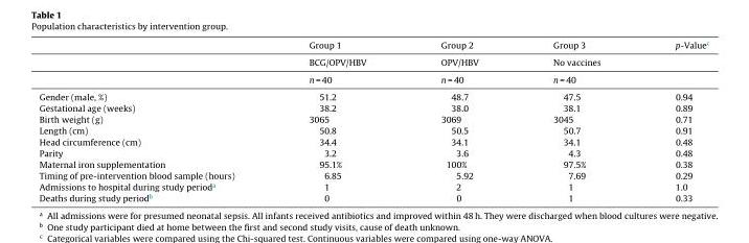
<table><thead><tr><td rowspan="3"></td><td rowspan="3">Group 1 BCG/OPV/HBV n = 40</td><td rowspan="3">Group 2 OPV/HBV n = 40</td><td rowspan="3">Group 3 No vaccines n = 40</td><td rowspan="3">p-Value<sup>c</sup></td></tr><tr></tr><tr></tr></thead><tbody><tr><td>Gender (male, %)</td><td>51.2</td><td>48.7</td><td>47.5</td><td>0.94</td></tr><tr><td>Gestational age (weeks)</td><td>38.2</td><td>38.0</td><td>38.1</td><td>0.89</td></tr><tr><td>Birth weight (g)</td><td>3065</td><td>3069</td><td>3045</td><td>0.71</td></tr><tr><td>Length (cm)</td><td>50.8</td><td>50.5</td><td>50.7</td><td>0.91</td></tr><tr><td>Head circumference (cm)</td><td>34.4</td><td>34.1</td><td>34.1</td><td>0.48</td></tr><tr><td>Parity</td><td>3.2</td><td>3.6</td><td>4.3</td><td>0.48</td></tr><tr><td>Maternal iron supplementation</td><td>95.1%</td><td>100%</td><td>97.5%</td><td>0.38</td></tr><tr><td>Timing of pre-intervention blood sample (hours)</td><td>6.85</td><td>5.92</td><td>7.69</td><td>0.29</td></tr><tr><td>Admissions to hospital during study period<sup>a</sup></td><td>1</td><td>2</td><td>1</td><td>1.0</td></tr><tr><td>Deaths during study period<sup>b</sup></td><td>0</td><td>0</td><td>1</td><td>0.33</td></tr></tbody></table>